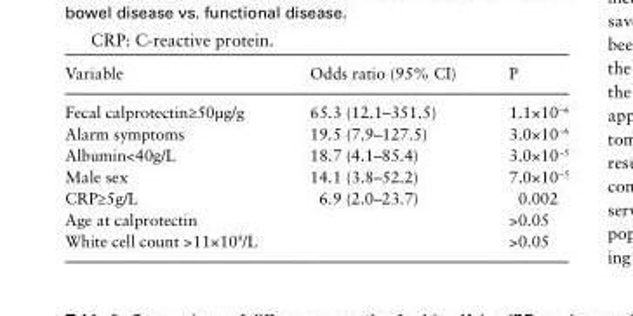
<table><thead><tr><td>Variable</td><td>Odds ratio (95% CI)</td><td>P</td></tr></thead><tbody><tr><td>Fecal calprotectin≥50μg/g</td><td>65.3 (12.1–351.5)</td><td>1.1×10<sup>−6</sup></td></tr><tr><td>Alarm symptoms</td><td>19.5 (7.9–127.5)</td><td>3.0×10<sup>−6</sup></td></tr><tr><td>Albumin&lt;40g/L</td><td>18.7 (4.1–85.4)</td><td>3.0×10<sup>−5</sup></td></tr><tr><td>Male sex</td><td>14.1 (3.8–52.2)</td><td>7.0×10<sup>−5</sup></td></tr><tr><td>CRP≥5g/L</td><td>6.9 (2.0–23.7)</td><td>0.002</td></tr><tr><td>Age at calprotectin</td><td></td><td>&gt;0.05</td></tr><tr><td>White cell count &gt;11×10<sup>9</sup>/L</td><td></td><td>&gt;0.05</td></tr></tbody></table>